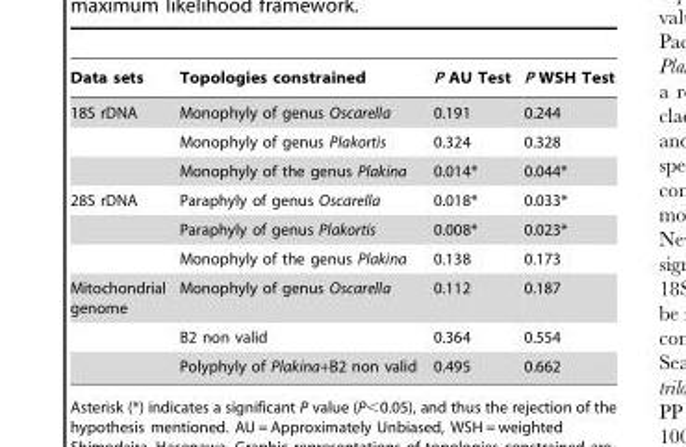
<table><thead><tr><td>Data sets</td><td>Topologies constrained</td><td>P AU Test</td><td>P WSH Test</td></tr></thead><tbody><tr><td rowspan="3">18S rDNA</td><td>Monophyly of genus Oscarella</td><td>0.191</td><td>0.244</td></tr><tr><td>Monophyly of genus Plakortis</td><td>0.324</td><td>0.328</td></tr><tr><td>Monophyly of the genus Plakina</td><td>0.014*</td><td>0.044*</td></tr><tr><td rowspan="3">28S rDNA</td><td>Paraphyly of genus Oscarella</td><td>0.018*</td><td>0.033*</td></tr><tr><td>Paraphyly of genus Plakortis</td><td>0.008*</td><td>0.023*</td></tr><tr><td>Monophyly of the genus Plakina</td><td>0.138</td><td>0.173</td></tr><tr><td rowspan="3">Mitochondrial genome</td><td>Monophyly of genus Oscarella</td><td>0.112</td><td>0.187</td></tr><tr><td>B2 non valid</td><td>0.364</td><td>0.554</td></tr><tr><td>Polyphyly of Plakina+B2 non valid</td><td>0.495</td><td>0.662</td></tr></tbody></table>